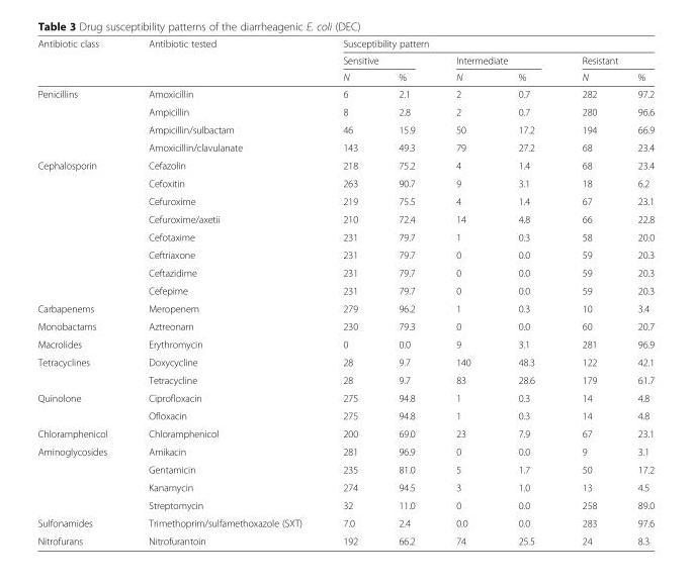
<table><thead><tr><td rowspan="3">Antibiotic class</td><td rowspan="3">Antibiotic tested</td><td colspan="6">Susceptibility pattern</td></tr><tr><td colspan="2">Sensitive</td><td colspan="2">Intermediate</td><td colspan="2">Resistant</td></tr><tr><td>N</td><td>%</td><td>N</td><td>%</td><td>N</td><td>%</td></tr></thead><tbody><tr><td rowspan="4">Penicillins</td><td>Amoxicillin</td><td>6</td><td>2.1</td><td>2</td><td>0.7</td><td>282</td><td>97.2</td></tr><tr><td>Ampicillin</td><td>8</td><td>2.8</td><td>2</td><td>0.7</td><td>280</td><td>96.6</td></tr><tr><td>Ampicillin/sulbactam</td><td>46</td><td>15.9</td><td>50</td><td>17.2</td><td>194</td><td>66.9</td></tr><tr><td>Amoxicillin/clavulanate</td><td>143</td><td>49.3</td><td>79</td><td>27.2</td><td>68</td><td>23.4</td></tr><tr><td rowspan="8">Cephalosporin</td><td>Cefazolin</td><td>218</td><td>75.2</td><td>4</td><td>1.4</td><td>68</td><td>23.4</td></tr><tr><td>Cefoxitin</td><td>263</td><td>90.7</td><td>9</td><td>3.1</td><td>18</td><td>6.2</td></tr><tr><td>Cefuroxime</td><td>219</td><td>75.5</td><td>4</td><td>1.4</td><td>67</td><td>23.1</td></tr><tr><td>Cefuroxime/axetii</td><td>210</td><td>72.4</td><td>14</td><td>4.8</td><td>66</td><td>22.8</td></tr><tr><td>Cefotaxime</td><td>231</td><td>79.7</td><td>1</td><td>0.3</td><td>58</td><td>20.0</td></tr><tr><td>Ceftriaxone</td><td>231</td><td>79.7</td><td>0</td><td>0.0</td><td>59</td><td>20.3</td></tr><tr><td>Ceftazidime</td><td>231</td><td>79.7</td><td>0</td><td>0.0</td><td>59</td><td>20.3</td></tr><tr><td>Cefepime</td><td>231</td><td>79.7</td><td>0</td><td>0.0</td><td>59</td><td>20.3</td></tr><tr><td>Carbapenems</td><td>Meropenem</td><td>279</td><td>96.2</td><td>1</td><td>0.3</td><td>10</td><td>3.4</td></tr><tr><td>Monobactams</td><td>Aztreonam</td><td>230</td><td>79.3</td><td>0</td><td>0.0</td><td>60</td><td>20.7</td></tr><tr><td>Macrolides</td><td>Erythromycin</td><td>0</td><td>0.0</td><td>9</td><td>3.1</td><td>281</td><td>96.9</td></tr><tr><td rowspan="2">Tetracyclines</td><td>Doxycycline</td><td>28</td><td>9.7</td><td>140</td><td>48.3</td><td>122</td><td>42.1</td></tr><tr><td>Tetracycline</td><td>28</td><td>9.7</td><td>83</td><td>28.6</td><td>179</td><td>61.7</td></tr><tr><td rowspan="2">Quinolone</td><td>Ciprofloxacin</td><td>275</td><td>94.8</td><td>1</td><td>0.3</td><td>14</td><td>4.8</td></tr><tr><td>Ofloxacin</td><td>275</td><td>94.8</td><td>1</td><td>0.3</td><td>14</td><td>4.8</td></tr><tr><td>Chloramphenicol</td><td>Chloramphenicol</td><td>200</td><td>69.0</td><td>23</td><td>7.9</td><td>67</td><td>23.1</td></tr><tr><td rowspan="4">Aminoglycosides</td><td>Amikacin</td><td>281</td><td>96.9</td><td>0</td><td>0.0</td><td>9</td><td>3.1</td></tr><tr><td>Gentamicin</td><td>235</td><td>81.0</td><td>5</td><td>1.7</td><td>50</td><td>17.2</td></tr><tr><td>Kanamycin</td><td>274</td><td>94.5</td><td>3</td><td>1.0</td><td>13</td><td>4.5</td></tr><tr><td>Streptomycin</td><td>32</td><td>11.0</td><td>0</td><td>0.0</td><td>258</td><td>89.0</td></tr><tr><td>Sulfonamides</td><td>Trimethoprim/sulfamethoxazole (SXT)</td><td>7.0</td><td>2.4</td><td>0.0</td><td>0.0</td><td>283</td><td>97.6</td></tr><tr><td>Nitrofurans</td><td>Nitrofurantoin</td><td>192</td><td>66.2</td><td>74</td><td>25.5</td><td>24</td><td>8.3</td></tr></tbody></table>